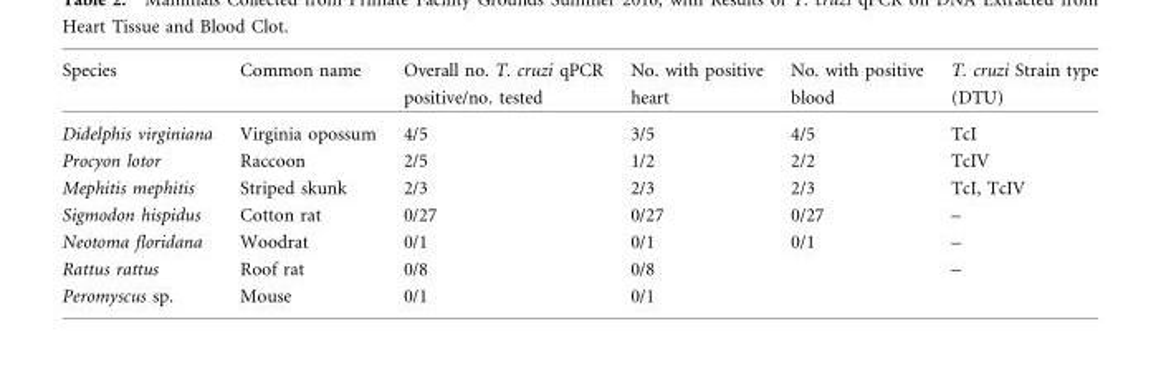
<table><thead><tr><td>Species</td><td>Common name</td><td>Overall no. T. cruzi qPCR positive/no. tested</td><td>No. with positive heart</td><td>No. with positive blood</td><td>T. cruzi Strain type (DTU)</td></tr></thead><tbody><tr><td>Didelphis virginiana</td><td>Virginia opossum</td><td>4/5</td><td>3/5</td><td>4/5</td><td>TcI</td></tr><tr><td>Procyon lotor</td><td>Raccoon</td><td>2/5</td><td>1/2</td><td>2/2</td><td>TcIV</td></tr><tr><td>Mephitis mephitis</td><td>Striped skunk</td><td>2/3</td><td>2/3</td><td>2/3</td><td>TcI, TcIV</td></tr><tr><td>Sigmodon hispidus</td><td>Cotton rat</td><td>0/27</td><td>0/27</td><td>0/27</td><td>–</td></tr><tr><td>Neotoma floridana</td><td>Woodrat</td><td>0/1</td><td>0/1</td><td>0/1</td><td>–</td></tr><tr><td>Rattus rattus</td><td>Roof rat</td><td>0/8</td><td>0/8</td><td></td><td>–</td></tr><tr><td>Peromyscus sp.</td><td>Mouse</td><td>0/1</td><td>0/1</td><td></td><td></td></tr></tbody></table>